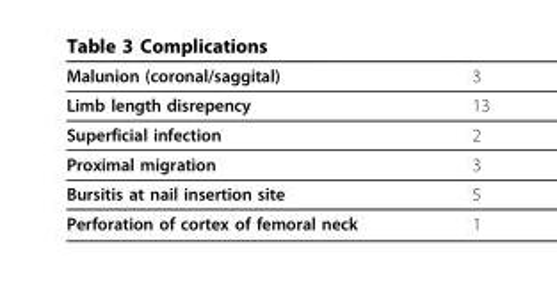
<table><thead><tr><td>Malunion (coronal/saggital)</td><td>3</td></tr></thead><tbody><tr><td>Limb length disrepency</td><td>13</td></tr><tr><td>Superficial infection</td><td>2</td></tr><tr><td>Proximal migration</td><td>3</td></tr><tr><td>Bursitis at nail insertion site</td><td>5</td></tr><tr><td>Perforation of cortex of femoral neck</td><td>1</td></tr></tbody></table>